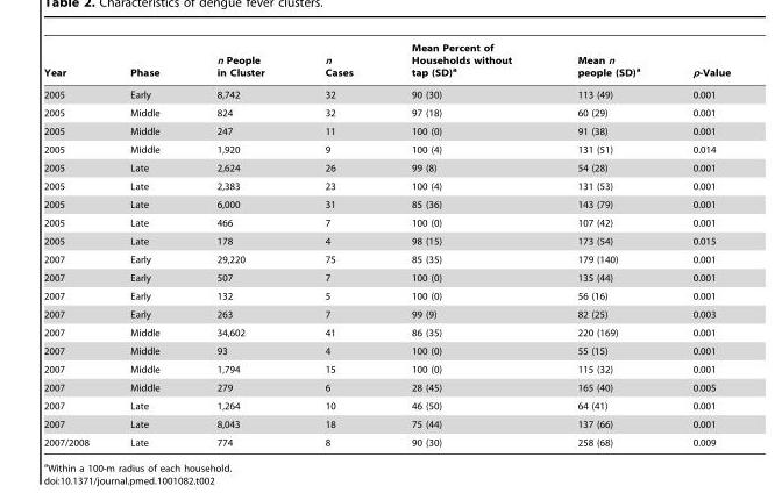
<table><thead><tr><td>Year</td><td>Phase</td><td>n People in Cluster</td><td>n Cases</td><td>Mean Percent of Households without tap (SD)<sup>a</sup></td><td>Mean n people (SD)<sup>a</sup></td><td>p-Value</td></tr></thead><tbody><tr><td>2005</td><td>Early</td><td>8,742</td><td>32</td><td>90 (30)</td><td>113 (49)</td><td>0.001</td></tr><tr><td>2005</td><td>Middle</td><td>824</td><td>32</td><td>97 (18)</td><td>60 (29)</td><td>0.001</td></tr><tr><td>2005</td><td>Middle</td><td>247</td><td>11</td><td>100 (0)</td><td>91 (38)</td><td>0.001</td></tr><tr><td>2005</td><td>Middle</td><td>1,920</td><td>9</td><td>100 (4)</td><td>131 (51)</td><td>0.014</td></tr><tr><td>2005</td><td>Late</td><td>2,624</td><td>26</td><td>99 (8)</td><td>54 (28)</td><td>0.001</td></tr><tr><td>2005</td><td>Late</td><td>2,383</td><td>23</td><td>100 (4)</td><td>131 (53)</td><td>0.001</td></tr><tr><td>2005</td><td>Late</td><td>6,000</td><td>31</td><td>85 (36)</td><td>143 (79)</td><td>0.001</td></tr><tr><td>2005</td><td>Late</td><td>466</td><td>7</td><td>100 (0)</td><td>107 (42)</td><td>0.001</td></tr><tr><td>2005</td><td>Late</td><td>178</td><td>4</td><td>98 (15)</td><td>173 (54)</td><td>0.015</td></tr><tr><td>2007</td><td>Early</td><td>29,220</td><td>75</td><td>85 (35)</td><td>179 (140)</td><td>0.001</td></tr><tr><td>2007</td><td>Early</td><td>507</td><td>7</td><td>100 (0)</td><td>135 (44)</td><td>0.001</td></tr><tr><td>2007</td><td>Early</td><td>132</td><td>5</td><td>100 (0)</td><td>56 (16)</td><td>0.001</td></tr><tr><td>2007</td><td>Early</td><td>263</td><td>7</td><td>99 (9)</td><td>82 (25)</td><td>0.003</td></tr><tr><td>2007</td><td>Middle</td><td>34,602</td><td>41</td><td>86 (35)</td><td>220 (169)</td><td>0.001</td></tr><tr><td>2007</td><td>Middle</td><td>93</td><td>4</td><td>100 (0)</td><td>55 (15)</td><td>0.001</td></tr><tr><td>2007</td><td>Middle</td><td>1,794</td><td>15</td><td>100 (0)</td><td>115 (32)</td><td>0.001</td></tr><tr><td>2007</td><td>Middle</td><td>279</td><td>6</td><td>28 (45)</td><td>165 (40)</td><td>0.005</td></tr><tr><td>2007</td><td>Late</td><td>1,264</td><td>10</td><td>46 (50)</td><td>64 (41)</td><td>0.001</td></tr><tr><td>2007</td><td>Late</td><td>8,043</td><td>18</td><td>75 (44)</td><td>137 (66)</td><td>0.001</td></tr><tr><td>2007/2008</td><td>Late</td><td>774</td><td>8</td><td>90 (30)</td><td>258 (68)</td><td>0.009</td></tr></tbody></table>